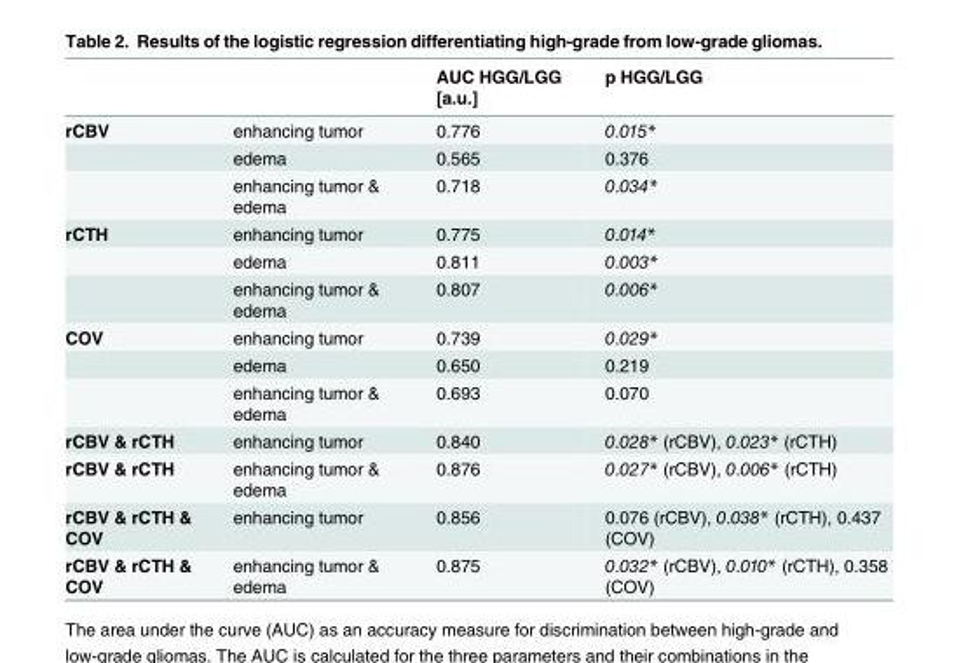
<table><thead><tr><td></td><td></td><td>AUC HGG/LGG [a.u.]</td><td>p HGG/LGG</td></tr></thead><tbody><tr><td rowspan="3">rCBV</td><td>enhancing tumor</td><td>0.776</td><td>0.015*</td></tr><tr><td>edema</td><td>0.565</td><td>0.376</td></tr><tr><td>enhancing tumor &amp; edema</td><td>0.718</td><td>0.034*</td></tr><tr><td rowspan="3">rCTH</td><td>enhancing tumor</td><td>0.775</td><td>0.014*</td></tr><tr><td>edema</td><td>0.811</td><td>0.003*</td></tr><tr><td>enhancing tumor &amp; edema</td><td>0.807</td><td>0.006*</td></tr><tr><td rowspan="3">COV</td><td>enhancing tumor</td><td>0.739</td><td>0.029*</td></tr><tr><td>edema</td><td>0.650</td><td>0.219</td></tr><tr><td>enhancing tumor &amp; edema</td><td>0.693</td><td>0.070</td></tr><tr><td>rCBV &amp; rCTH</td><td>enhancing tumor</td><td>0.840</td><td>0.028* (rCBV), 0.023* (rCTH)</td></tr><tr><td>rCBV &amp; rCTH</td><td>enhancing tumor &amp; edema</td><td>0.876</td><td>0.027* (rCBV), 0.006* (rCTH)</td></tr><tr><td>rCBV &amp; rCTH &amp; COV</td><td>enhancing tumor</td><td>0.856</td><td>0.076 (rCBV), 0.038* (rCTH), 0.437 (COV)</td></tr><tr><td>rCBV &amp; rCTH &amp; COV</td><td>enhancing tumor &amp; edema</td><td>0.875</td><td>0.032* (rCBV), 0.010* (rCTH), 0.358 (COV)</td></tr></tbody></table>